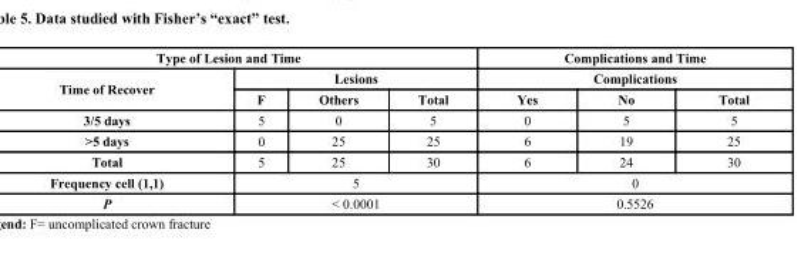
<table><thead><tr><td colspan="4">Type of Lesion and Time</td><td rowspan="2" colspan="3">Complications and Time Complications</td></tr><tr><td rowspan="2">Time of Recover</td><td colspan="3">Lesions</td></tr><tr><td>F</td><td>Others</td><td>Total</td><td>Yes</td><td>No</td><td>Total</td></tr></thead><tbody><tr><td>3/5 days</td><td>5</td><td>0</td><td>5</td><td>0</td><td>5</td><td>5</td></tr><tr><td>&gt;5 days</td><td>0</td><td>25</td><td>25</td><td>6</td><td>19</td><td>25</td></tr><tr><td>Total</td><td>5</td><td>25</td><td>30</td><td>6</td><td>24</td><td>30</td></tr><tr><td>Frequency cell (1,1)</td><td colspan="3">5</td><td colspan="3">0</td></tr><tr><td>P</td><td colspan="3">&lt; 0.0001</td><td colspan="3">0.5526</td></tr></tbody></table>